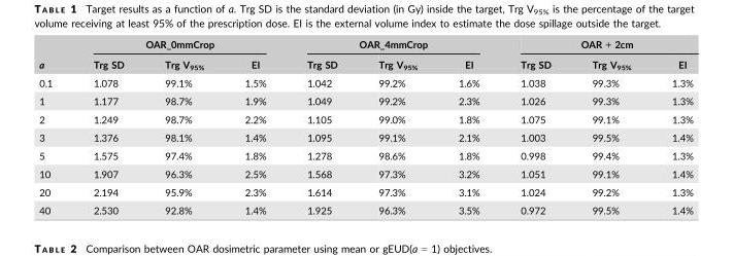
<table><thead><tr><td rowspan="2">a</td><td colspan="3">OAR_0mmCrop</td><td colspan="3">OAR_4mmCrop</td><td colspan="3">OAR + 2cm</td></tr><tr><td>Trg SD</td><td>Trg V<sub>95%</sub></td><td>EI</td><td>Trg SD</td><td>Trg V<sub>95%</sub></td><td>EI</td><td>Trg SD</td><td>Trg V<sub>95%</sub></td><td>EI</td></tr></thead><tbody><tr><td>0.1</td><td>1.078</td><td>99.1%</td><td>1.5%</td><td>1.042</td><td>99.2%</td><td>1.6%</td><td>1.038</td><td>99.3%</td><td>1.3%</td></tr><tr><td>1</td><td>1.177</td><td>98.7%</td><td>1.9%</td><td>1.049</td><td>99.2%</td><td>2.3%</td><td>1.026</td><td>99.3%</td><td>1.3%</td></tr><tr><td>2</td><td>1.249</td><td>98.7%</td><td>2.2%</td><td>1.105</td><td>99.0%</td><td>1.8%</td><td>1.075</td><td>99.1%</td><td>1.3%</td></tr><tr><td>3</td><td>1.376</td><td>98.1%</td><td>1.4%</td><td>1.095</td><td>99.1%</td><td>2.1%</td><td>1.003</td><td>99.5%</td><td>1.4%</td></tr><tr><td>5</td><td>1.575</td><td>97.4%</td><td>1.8%</td><td>1.278</td><td>98.6%</td><td>1.8%</td><td>0.998</td><td>99.4%</td><td>1.3%</td></tr><tr><td>10</td><td>1.907</td><td>96.3%</td><td>2.5%</td><td>1.568</td><td>97.3%</td><td>3.2%</td><td>1.051</td><td>99.1%</td><td>1.4%</td></tr><tr><td>20</td><td>2.194</td><td>95.9%</td><td>2.3%</td><td>1.614</td><td>97.3%</td><td>3.1%</td><td>1.024</td><td>99.2%</td><td>1.3%</td></tr><tr><td>40</td><td>2.530</td><td>92.8%</td><td>1.4%</td><td>1.925</td><td>96.3%</td><td>3.5%</td><td>0.972</td><td>99.5%</td><td>1.4%</td></tr></tbody></table>